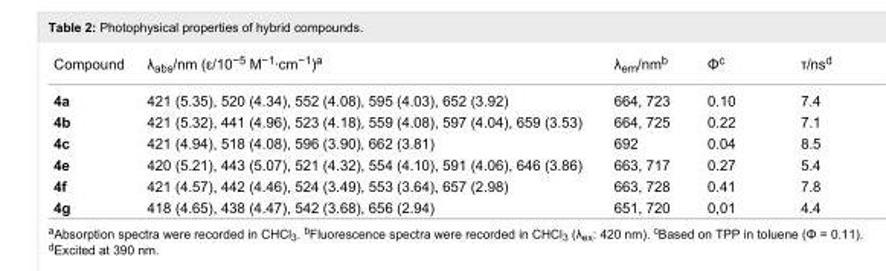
<table><tbody><tr><td>Compound</td><td>λ<sub>abs</sub>/nm (ε/10<sup>−5</sup> M<sup>−1</sup>·cm<sup>−1</sup>)<sup>a</sup></td><td>λ<sub>em</sub>/nm<sup>b</sup></td><td>Φ<sup>c</sup></td><td>τ/ns<sup>d</sup></td></tr><tr><td>4a</td><td>421 (5.35), 520 (4.34), 552 (4.08), 595 (4.03), 652 (3.92)</td><td>664, 723</td><td>0.10</td><td>7.4</td></tr><tr><td>4b</td><td>421 (5.32), 441 (4.96), 523 (4.18), 559 (4.08), 597 (4.04), 659 (3.53)</td><td>664, 725</td><td>0.22</td><td>7.1</td></tr><tr><td>4c</td><td>421 (4.94), 518 (4.08), 596 (3.90), 662 (3.81)</td><td>692</td><td>0.04</td><td>8.5</td></tr><tr><td>4e</td><td>420 (5.21), 443 (5.07), 521 (4.32), 554 (4.10), 591 (4.06), 646 (3.86)</td><td>663, 717</td><td>0.27</td><td>5.4</td></tr><tr><td>4f</td><td>421 (4.57), 442 (4.46), 524 (3.49), 553 (3.64), 657 (2.98)</td><td>663, 728</td><td>0.41</td><td>7.8</td></tr><tr><td>4g</td><td>418 (4.65), 438 (4.47), 542 (3.68), 656 (2.94)</td><td>651, 720</td><td>0,01</td><td>4.4</td></tr></tbody></table>